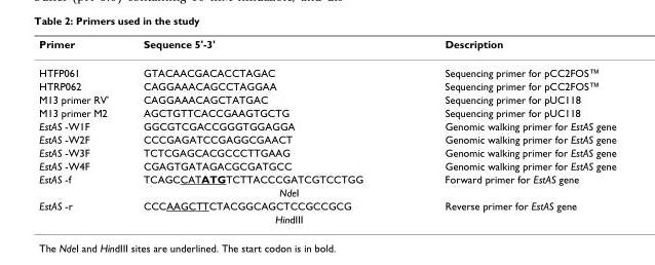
<table><thead><tr><td>Primer</td><td>Sequence 5&#x27;-3&#x27;</td><td>Description</td></tr></thead><tbody><tr><td>HTFP061</td><td>GTACAACGACACCTAGAC</td><td>Sequencing primer for pCC2FOS™</td></tr><tr><td>HTRP062</td><td>CAGGAAACAGCCTAGGAA</td><td>Sequencing primer for pCC2FOS™</td></tr><tr><td>M13 primer RV&#x27;</td><td>CAGGAAACAGCTATGAC</td><td>Sequencing primer for pUC118</td></tr><tr><td>M13 primer M2</td><td>AGCTGTTCACCGAAGTGCTG</td><td>Sequencing primer for pUC118</td></tr><tr><td>EstAS -W1F</td><td>GGCGTCGACCGGGTGGAGGA</td><td>Genomic walking primer for EstAS gene</td></tr><tr><td>EstAS -W2F</td><td>CCCGAGATCCGAGGCGAACT</td><td>Genomic walking primer for EstAS gene</td></tr><tr><td>EstAS -W3F</td><td>TCTCGAGCACGCCCTTGAAG</td><td>Genomic walking primer for EstAS gene</td></tr><tr><td>EstAS -W4F</td><td>CGAGTGATAGACGCGATGCC</td><td>Genomic walking primer for EstAS gene</td></tr><tr><td rowspan="2">EstAS -f</td><td>TCAGCCATATGTCTTACCCGATCGTCCTGG</td><td>Forward primer for EstAS gene</td></tr><tr><td>NdeI</td><td></td></tr><tr><td rowspan="2">EstAS -r</td><td>CCCAAGCTTCTACGGCAGCTCCGCCGCG</td><td>Reverse primer for EstAS gene</td></tr><tr><td>HindIII</td><td></td></tr></tbody></table>